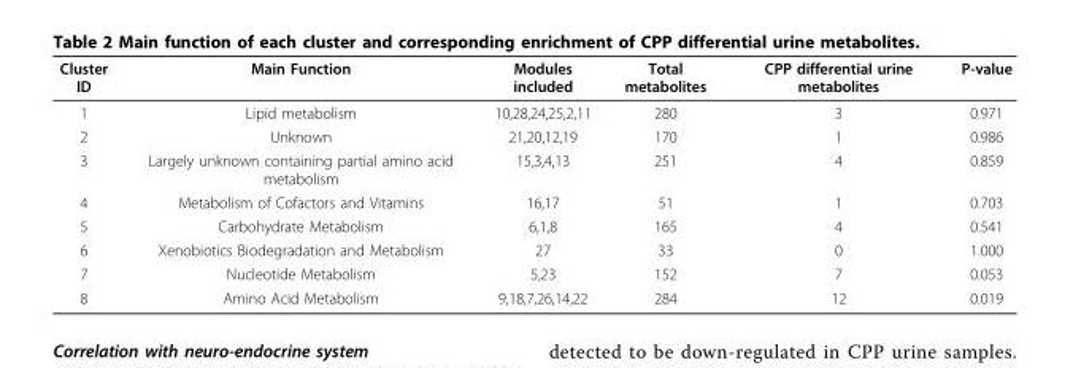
<table><thead><tr><td>Cluster ID</td><td>Main Function</td><td>Modules included</td><td>Total metabolites</td><td>CPP differential urine metabolites</td><td>P-value</td></tr></thead><tbody><tr><td>1</td><td>Lipid metabolism</td><td>10,28,24,25,2,11</td><td>280</td><td>3</td><td>0.971</td></tr><tr><td>2</td><td>Unknown</td><td>21,20,12,19</td><td>170</td><td>1</td><td>0.986</td></tr><tr><td>3</td><td>Largely unknown containing partial amino acid metabolism</td><td>15,3,4,13</td><td>251</td><td>4</td><td>0.859</td></tr><tr><td>4</td><td>Metabolism of Cofactors and Vitamins</td><td>16,17</td><td>51</td><td>1</td><td>0.703</td></tr><tr><td>5</td><td>Carbohydrate Metabolism</td><td>6,1,8</td><td>165</td><td>4</td><td>0.541</td></tr><tr><td>6</td><td>Xenobiotics Biodegradation and Metabolism</td><td>27</td><td>33</td><td>0</td><td>1.000</td></tr><tr><td>7</td><td>Nucleotide Metabolism</td><td>5,23</td><td>152</td><td>7</td><td>0.053</td></tr><tr><td>8</td><td>Amino Acid Metabolism</td><td>9,18,7,26,14,22</td><td>284</td><td>12</td><td>0.019</td></tr></tbody></table>